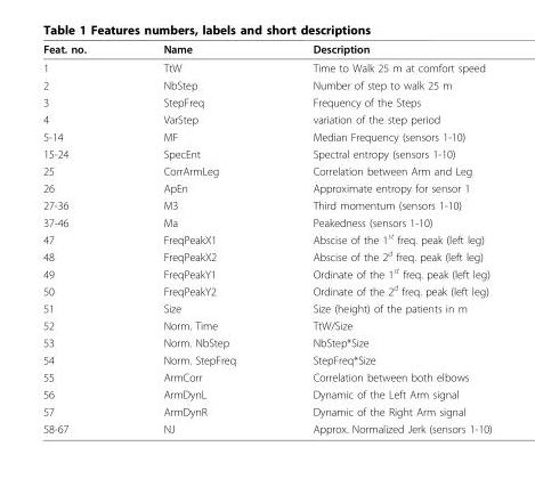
<table><thead><tr><td>Feat. no.</td><td>Name</td><td>Description</td></tr></thead><tbody><tr><td>1</td><td>TtW</td><td>Time to Walk 25 m at comfort speed</td></tr><tr><td>2</td><td>NbStep</td><td>Number of step to walk 25 m</td></tr><tr><td>3</td><td>StepFreq</td><td>Frequency of the Steps</td></tr><tr><td>4</td><td>VarStep</td><td>variation of the step period</td></tr><tr><td>5-14</td><td>MF</td><td>Median Frequency (sensors 1-10)</td></tr><tr><td>15-24</td><td>SpecEnt</td><td>Spectral entropy (sensors 1-10)</td></tr><tr><td>25</td><td>CorrArmLeg</td><td>Correlation between Arm and Leg</td></tr><tr><td>26</td><td>ApEn</td><td>Approximate entropy for sensor 1</td></tr><tr><td>27-36</td><td>M3</td><td>Third momentum (sensors 1-10)</td></tr><tr><td>37-46</td><td>Ma</td><td>Peakedness (sensors 1-10)</td></tr><tr><td>47</td><td>FreqPeakX1</td><td>Abscise of the 1<sup>st</sup> freq. peak (left leg)</td></tr><tr><td>48</td><td>FreqPeakX2</td><td>Abscise of the 2<sup>d</sup> freq. peak (left leg)</td></tr><tr><td>49</td><td>FreqPeakY1</td><td>Ordinate of the 1<sup>st</sup> freq. peak (left leg)</td></tr><tr><td>50</td><td>FreqPeakY2</td><td>Ordinate of the 2<sup>d</sup> freq. peak (left leg)</td></tr><tr><td>51</td><td>Size</td><td>Size (height) of the patients in m</td></tr><tr><td>52</td><td>Norm. Time</td><td>TtW/Size</td></tr><tr><td>53</td><td>Norm. NbStep</td><td>NbStep*Size</td></tr><tr><td>54</td><td>Norm. StepFreq</td><td>StepFreq*Size</td></tr><tr><td>55</td><td>ArmCorr</td><td>Correlation between both elbows</td></tr><tr><td>56</td><td>ArmDynL</td><td>Dynamic of the Left Arm signal</td></tr><tr><td>57</td><td>ArmDynR</td><td>Dynamic of the Right Arm signal</td></tr><tr><td>58-67</td><td>NJ</td><td>Approx. Normalized Jerk (sensors 1-10)</td></tr></tbody></table>